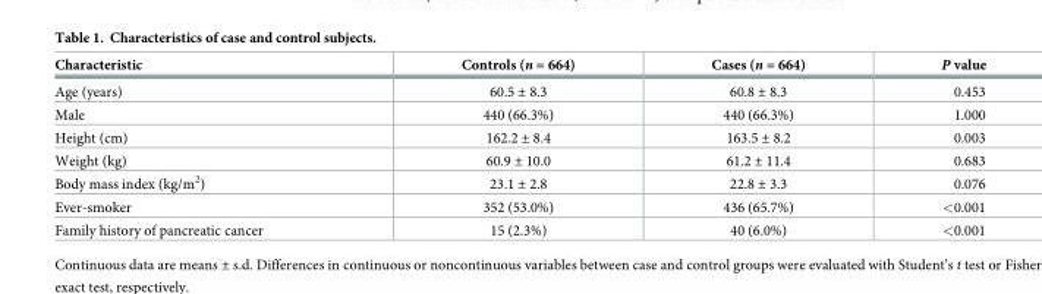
<table><thead><tr><td>Characteristic</td><td>Controls (n = 664)</td><td>Cases (n = 664)</td><td>P value</td></tr></thead><tbody><tr><td>Age (years)</td><td>60.5 ± 8.3</td><td>60.8 ± 8.3</td><td>0.453</td></tr><tr><td>Male</td><td>440 (66.3%)</td><td>440 (66.3%)</td><td>1.000</td></tr><tr><td>Height (cm)</td><td>162.2 ± 8.4</td><td>163.5 ± 8.2</td><td>0.003</td></tr><tr><td>Weight (kg)</td><td>60.9 ± 10.0</td><td>61.2 ± 11.4</td><td>0.683</td></tr><tr><td>Body mass index (kg/m<sup>2</sup>)</td><td>23.1 ± 2.8</td><td>22.8 ± 3.3</td><td>0.076</td></tr><tr><td>Ever-smoker</td><td>352 (53.0%)</td><td>436 (65.7%)</td><td>&lt;0.001</td></tr><tr><td>Family history of pancreatic cancer</td><td>15 (2.3%)</td><td>40 (6.0%)</td><td>&lt;0.001</td></tr></tbody></table>